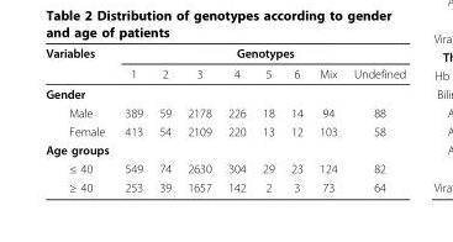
<table><thead><tr><td rowspan="2">Variables</td><td colspan="8">Genotypes</td></tr><tr><td>1</td><td>2</td><td>3</td><td>4</td><td>5</td><td>6</td><td>Mix</td><td>Undefined</td></tr></thead><tbody><tr><td colspan="9">Gender</td></tr><tr><td>Male</td><td>389</td><td>59</td><td>2178</td><td>226</td><td>18</td><td>14</td><td>94</td><td>88</td></tr><tr><td>Female</td><td>413</td><td>54</td><td>2109</td><td>220</td><td>13</td><td>12</td><td>103</td><td>58</td></tr><tr><td colspan="9">Age groups</td></tr><tr><td>≤ 40</td><td>549</td><td>74</td><td>2630</td><td>304</td><td>29</td><td>23</td><td>124</td><td>82</td></tr><tr><td>≥ 40</td><td>253</td><td>39</td><td>1657</td><td>142</td><td>2</td><td>3</td><td>73</td><td>64</td></tr></tbody></table>